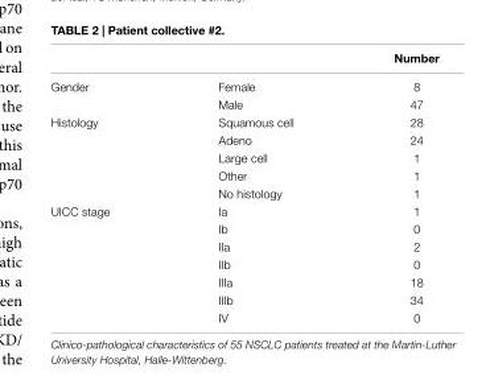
<table><thead><tr><td></td><td></td><td>number</td></tr></thead><tbody><tr><td rowspan="2">Gender</td><td>Female</td><td>8</td></tr><tr><td>Male</td><td>47</td></tr><tr><td rowspan="5">Histology</td><td>Squamous cell</td><td>28</td></tr><tr><td>Adeno</td><td>24</td></tr><tr><td>Large cell</td><td>1</td></tr><tr><td>Other</td><td>1</td></tr><tr><td>No histology</td><td>1</td></tr><tr><td rowspan="7">UICC stage</td><td>Ia</td><td>1</td></tr><tr><td>Ib</td><td>0</td></tr><tr><td>IIa</td><td>2</td></tr><tr><td>IIb</td><td>0</td></tr><tr><td>IIIa</td><td>18</td></tr><tr><td>IIIb</td><td>34</td></tr><tr><td>IV</td><td>0</td></tr></tbody></table>